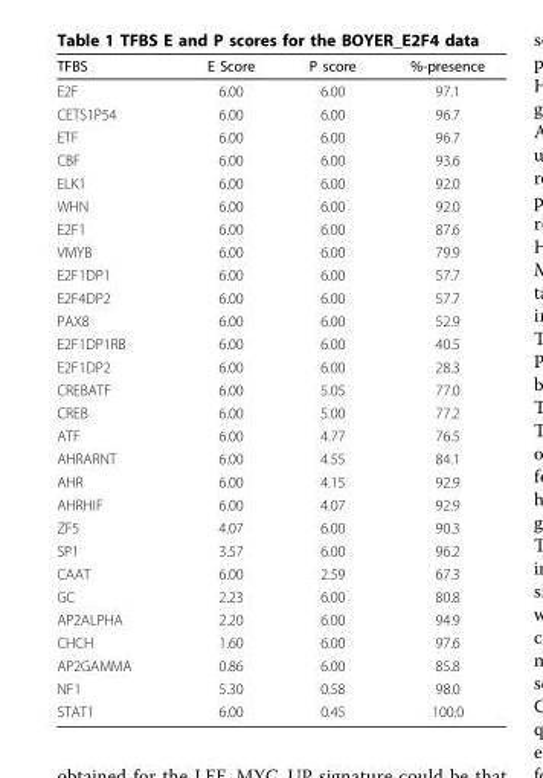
<table><thead><tr><td>TFBS</td><td>E Score</td><td>P score</td><td>%-presence</td></tr></thead><tbody><tr><td>E2F</td><td>6.00</td><td>6.00</td><td>97.1</td></tr><tr><td>CETS1P54</td><td>6.00</td><td>6.00</td><td>96.7</td></tr><tr><td>ETF</td><td>6.00</td><td>6.00</td><td>96.7</td></tr><tr><td>CBF</td><td>6.00</td><td>6.00</td><td>93.6</td></tr><tr><td>ELK1</td><td>6.00</td><td>6.00</td><td>92.0</td></tr><tr><td>WHN</td><td>6.00</td><td>6.00</td><td>92.0</td></tr><tr><td>E2F1</td><td>6.00</td><td>6.00</td><td>87.6</td></tr><tr><td>VMYB</td><td>6.00</td><td>6.00</td><td>79.9</td></tr><tr><td>E2F1DP1</td><td>6.00</td><td>6.00</td><td>57.7</td></tr><tr><td>E2F4DP2</td><td>6.00</td><td>6.00</td><td>57.7</td></tr><tr><td>PAX8</td><td>6.00</td><td>6.00</td><td>52.9</td></tr><tr><td>E2F1DP1RB</td><td>6.00</td><td>6.00</td><td>40.5</td></tr><tr><td>E2F1DP2</td><td>6.00</td><td>6.00</td><td>28.3</td></tr><tr><td>CREBATF</td><td>6.00</td><td>5.05</td><td>77.0</td></tr><tr><td>CREB</td><td>6.00</td><td>5.00</td><td>77.2</td></tr><tr><td>ATF</td><td>6.00</td><td>4.77</td><td>76.5</td></tr><tr><td>AHRARNT</td><td>6.00</td><td>4.55</td><td>84.1</td></tr><tr><td>AHR</td><td>6.00</td><td>4.15</td><td>92.9</td></tr><tr><td>AHRHIF</td><td>6.00</td><td>4.07</td><td>92.9</td></tr><tr><td>ZF5</td><td>4.07</td><td>6.00</td><td>90.3</td></tr><tr><td>SP1</td><td>3.57</td><td>6.00</td><td>96.2</td></tr><tr><td>CAAT</td><td>6.00</td><td>2.59</td><td>67.3</td></tr><tr><td>GC</td><td>2.23</td><td>6.00</td><td>80.8</td></tr><tr><td>AP2ALPHA</td><td>2.20</td><td>6.00</td><td>94.9</td></tr><tr><td>CHCH</td><td>1.60</td><td>6.00</td><td>97.6</td></tr><tr><td>AP2GAMMA</td><td>0.86</td><td>6.00</td><td>85.8</td></tr><tr><td>NF1</td><td>5.30</td><td>0.58</td><td>98.0</td></tr><tr><td>STAT1</td><td>6.00</td><td>0.45</td><td>100.0</td></tr></tbody></table>